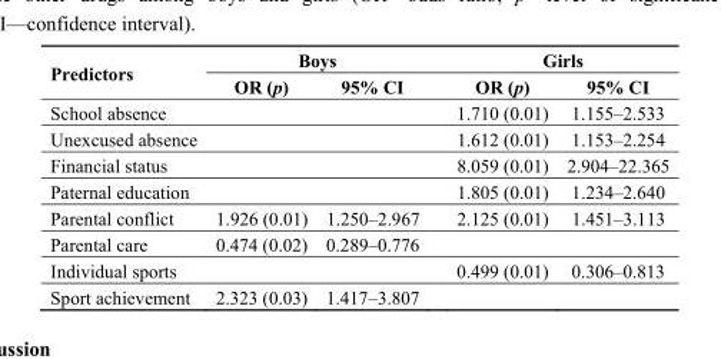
<table><thead><tr><td rowspan="2">Predictors</td><td colspan="2">Boys</td><td colspan="2">Girls</td></tr><tr><td>OR (p)</td><td>95% CI</td><td>OR (p)</td><td>95% CI</td></tr></thead><tbody><tr><td>School absence</td><td></td><td></td><td>1.710 (0.01)</td><td>1.155–2.533</td></tr><tr><td>Unexcused absence</td><td></td><td></td><td>1.612 (0.01)</td><td>1.153–2.254</td></tr><tr><td>Financial status</td><td></td><td></td><td>8.059 (0.01)</td><td>2.904–22.365</td></tr><tr><td>Paternal education</td><td></td><td></td><td>1.805 (0.01)</td><td>1.234–2.640</td></tr><tr><td>Parental conflict</td><td>1.926 (0.01)</td><td>1.250–2.967</td><td>2.125 (0.01)</td><td>1.451–3.113</td></tr><tr><td>Parental care</td><td>0.474 (0.02)</td><td>0.289–0.776</td><td></td><td></td></tr><tr><td>Individual sports</td><td></td><td></td><td>0.499 (0.01)</td><td>0.306–0.813</td></tr><tr><td>Sport achievement</td><td>2.323 (0.03)</td><td>1.417–3.807</td><td></td><td></td></tr></tbody></table>